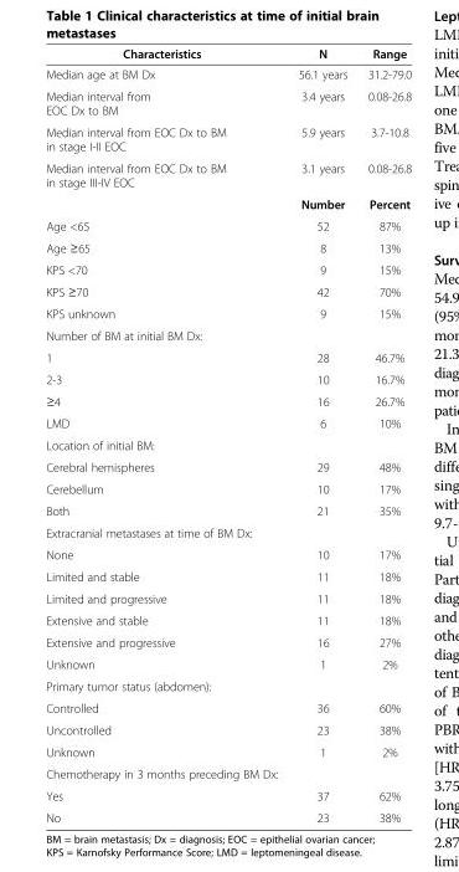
<table><thead><tr><td>Characteristics</td><td>N</td><td>Range</td></tr></thead><tbody><tr><td>Median age at BM Dx</td><td>56.1 years</td><td>31.2-79.0</td></tr><tr><td>Median interval from EOC Dx to BM</td><td>3.4 years</td><td>0.08-26.8</td></tr><tr><td>Median interval from EOC Dx to BM in stage I-II EOC</td><td>5.9 years</td><td>3.7-10.8</td></tr><tr><td rowspan="2">Median interval from EOC Dx to BM in stage III-IV EOC</td><td>3.1 years</td><td>0.08-26.8</td></tr><tr><td>Number</td><td>Percent</td></tr><tr><td>Age &lt;65</td><td>52</td><td>87%</td></tr><tr><td>Age ≥65</td><td>8</td><td>13%</td></tr><tr><td>KPS &lt;70</td><td>9</td><td>15%</td></tr><tr><td>KPS ≥70</td><td>42</td><td>70%</td></tr><tr><td>KPS unknown</td><td>9</td><td>15%</td></tr><tr><td colspan="3">Number of BM at initial BM Dx:</td></tr><tr><td>1</td><td>28</td><td>46.7%</td></tr><tr><td>2-3</td><td>10</td><td>16.7%</td></tr><tr><td>≥4</td><td>16</td><td>26.7%</td></tr><tr><td>LMD</td><td>6</td><td>10%</td></tr><tr><td colspan="3">Location of initial BM:</td></tr><tr><td>Cerebral hemispheres</td><td>29</td><td>48%</td></tr><tr><td>Cerebellum</td><td>10</td><td>17%</td></tr><tr><td>Both</td><td>21</td><td>35%</td></tr><tr><td colspan="3">Extracranial metastases at time of BM Dx:</td></tr><tr><td>None</td><td>10</td><td>17%</td></tr><tr><td>Limited and stable</td><td>11</td><td>18%</td></tr><tr><td>Limited and progressive</td><td>11</td><td>18%</td></tr><tr><td>Extensive and stable</td><td>11</td><td>18%</td></tr><tr><td>Extensive and progressive</td><td>16</td><td>27%</td></tr><tr><td>Unknown</td><td>1</td><td>2%</td></tr><tr><td colspan="3">Primary tumor status (abdomen):</td></tr><tr><td>Controlled</td><td>36</td><td>60%</td></tr><tr><td>Uncontrolled</td><td>23</td><td>38%</td></tr><tr><td>Unknown</td><td>1</td><td>2%</td></tr><tr><td colspan="3">Chemotherapy in 3 months preceding BM Dx:</td></tr><tr><td>Yes</td><td>37</td><td>62%</td></tr><tr><td>No</td><td>23</td><td>38%</td></tr></tbody></table>